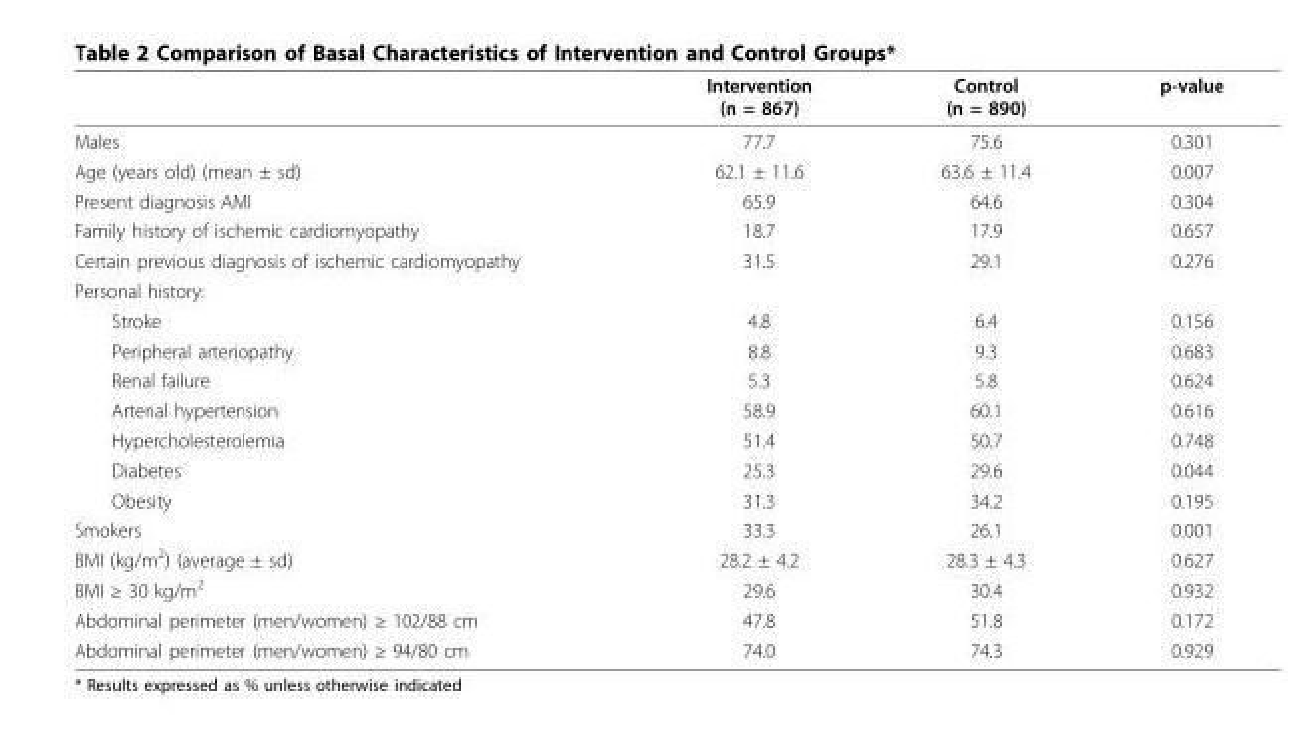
<table><thead><tr><td></td><td>Intervention (n = 867)</td><td>Control (n = 890)</td><td>p-value</td></tr></thead><tbody><tr><td>Males</td><td>77.7</td><td>75.6</td><td>0.301</td></tr><tr><td>Age (years old) (mean ± sd)</td><td>62.1 ± 11.6</td><td>63.6 ± 11.4</td><td>0.007</td></tr><tr><td>Present diagnosis AMI</td><td>65.9</td><td>64.6</td><td>0.304</td></tr><tr><td>Family history of ischemic cardiomyopathy</td><td>18.7</td><td>17.9</td><td>0.657</td></tr><tr><td>Certain previous diagnosis of ischemic cardiomyopathy</td><td>31.5</td><td>29.1</td><td>0.276</td></tr><tr><td colspan="4">Personal history:</td></tr><tr><td>Stroke</td><td>4.8</td><td>6.4</td><td>0.156</td></tr><tr><td>Peripheral arteriopathy</td><td>8.8</td><td>9.3</td><td>0.683</td></tr><tr><td>Renal failure</td><td>5.3</td><td>5.8</td><td>0.624</td></tr><tr><td>Arterial hypertension</td><td>58.9</td><td>60.1</td><td>0.616</td></tr><tr><td>Hypercholesterolemia</td><td>51.4</td><td>50.7</td><td>0.748</td></tr><tr><td>Diabetes</td><td>25.3</td><td>29.6</td><td>0.044</td></tr><tr><td>Obesity</td><td>31.3</td><td>34.2</td><td>0.195</td></tr><tr><td>Smokers</td><td>33.3</td><td>26.1</td><td>0.001</td></tr><tr><td>BMI (kg/m<sup>2</sup>) (average ± sd)</td><td>28.2 ± 4.2</td><td>28.3 ± 4.3</td><td>0.627</td></tr><tr><td>BMI ≥ 30 kg/m<sup>2</sup></td><td>29.6</td><td>30.4</td><td>0.932</td></tr><tr><td>Abdominal perimeter (men/women) ≥ 102/88 cm</td><td>47.8</td><td>51.8</td><td>0.172</td></tr><tr><td>Abdominal perimeter (men/women) ≥ 94/80 cm</td><td>74.0</td><td>74.3</td><td>0.929</td></tr></tbody></table>